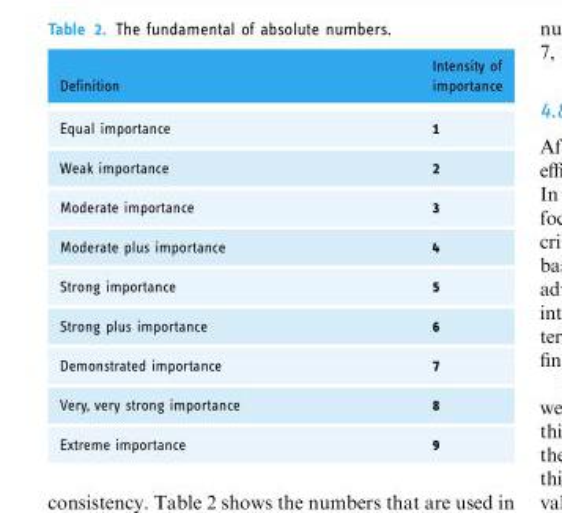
<table><thead><tr><td>Definition</td><td>Intensity of importance</td></tr></thead><tbody><tr><td>Equal importance</td><td>1</td></tr><tr><td>Weak importance</td><td>2</td></tr><tr><td>Moderate importance</td><td>3</td></tr><tr><td>Moderate plus importance</td><td>4</td></tr><tr><td>Strong importance</td><td>5</td></tr><tr><td>Strong plus importance</td><td>6</td></tr><tr><td>Demonstrated importance</td><td>7</td></tr><tr><td>Very, very strong importance</td><td>8</td></tr><tr><td>Extreme importance</td><td>9</td></tr></tbody></table>